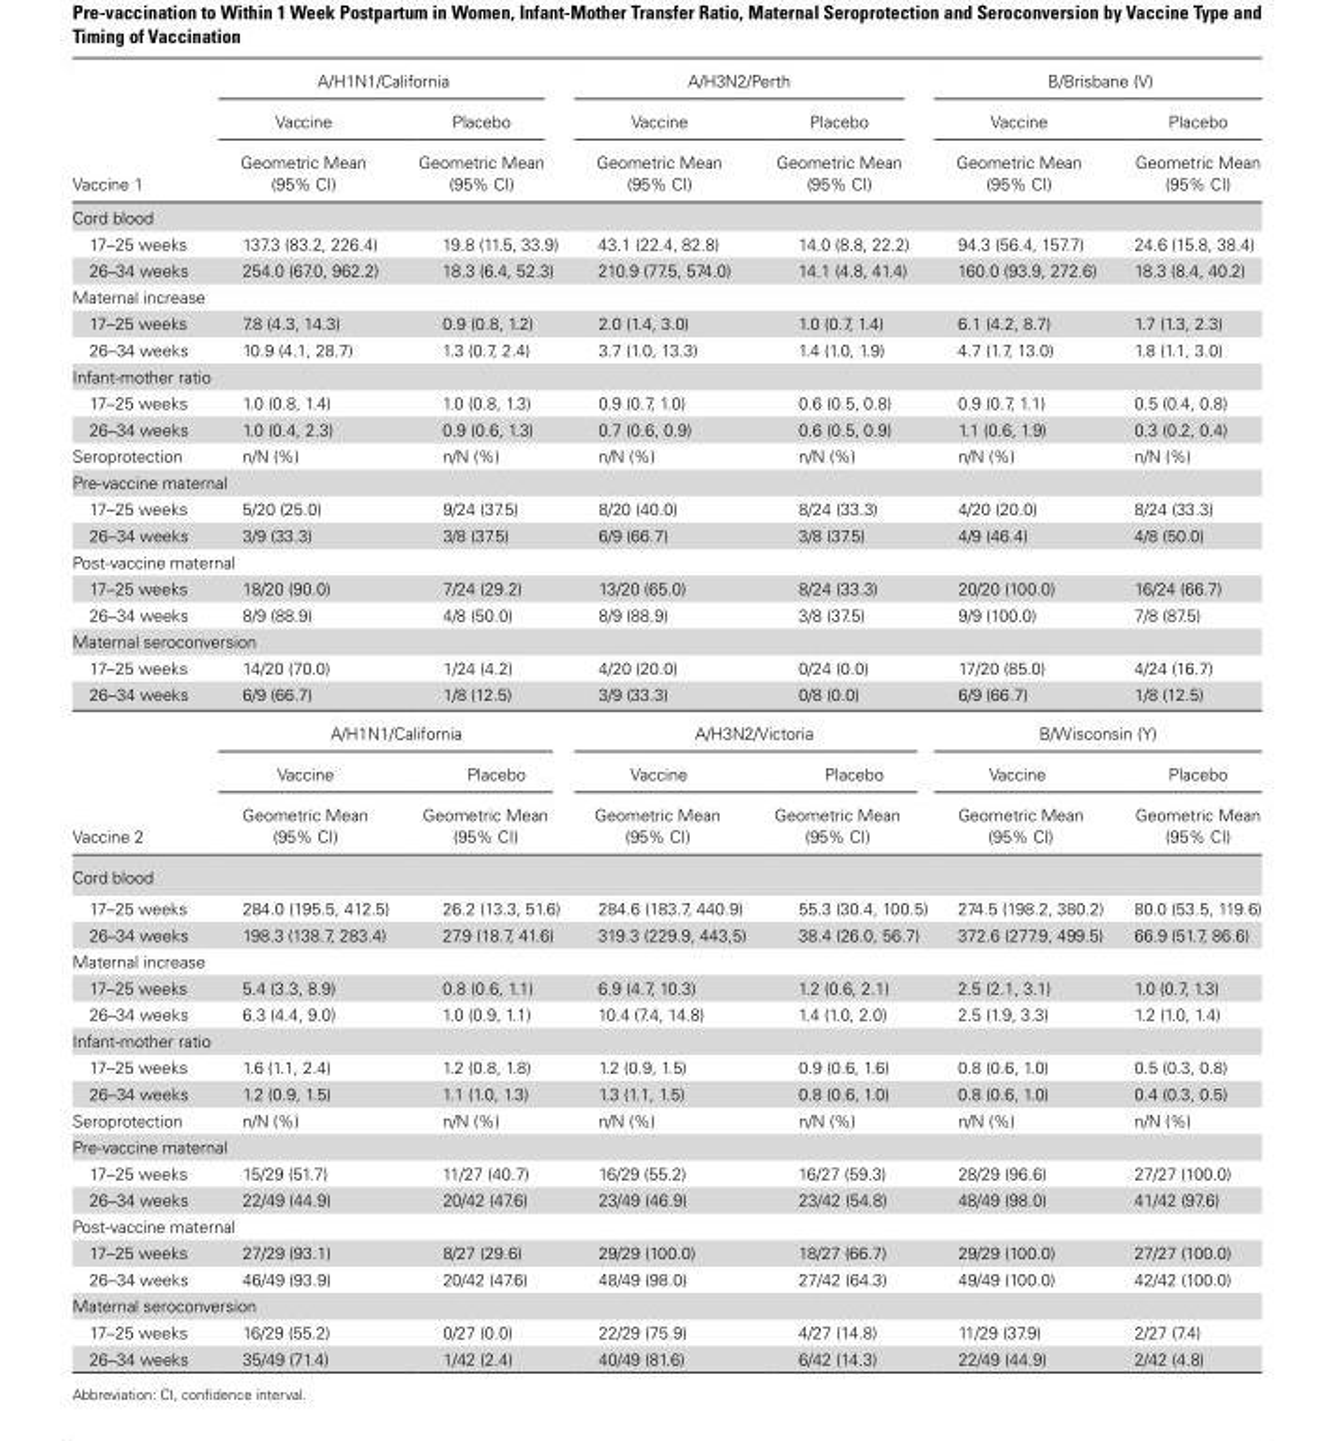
<table><thead><tr><td rowspan="3">Vaccine 1</td><td colspan="2">A/H1N1/California</td><td colspan="2">A/H3N2/Perth</td><td colspan="2">B/Brisbane (V)</td></tr><tr><td rowspan="2">Vaccine Geometric Mean (95% CI)</td><td rowspan="2">Placebo Geometric Mean (95% CI)</td><td rowspan="2">Vaccine Geometric Mean (95% CI)</td><td rowspan="2">Placebo Geometric Mean (95% CI)</td><td rowspan="2">Vaccine Geometric Mean (95% CI)</td><td rowspan="2">Placebo Geometric Mean (95% CI)</td></tr><tr></tr></thead><tbody><tr><td colspan="7">Cord blood</td></tr><tr><td>17–25 weeks</td><td>137.3 (83.2, 226.4)</td><td>19.8 (11.5, 33.9)</td><td>43.1 (22.4, 82.8)</td><td>14.0 (8.8, 22.2)</td><td>94.3 (56.4, 157.7)</td><td>24.6 (15.8, 38.4)</td></tr><tr><td>26–34 weeks</td><td>254.0 (67.0, 962.2)</td><td>18.3 (6.4, 52.3)</td><td>210.9 (77.5, 574.0)</td><td>14.1 (4.8, 41.4)</td><td>160.0 (93.9, 272.6)</td><td>18.3 (8.4, 40.2)</td></tr><tr><td colspan="7">Maternal increase</td></tr><tr><td>17–25 weeks</td><td>7.8 (4.3, 14.3)</td><td>0.9 (0.8, 1.2)</td><td>2.0 (1.4, 3.0)</td><td>1.0 (0.7, 1.4)</td><td>6.1 (4.2, 8.7)</td><td>1.7 (1.3, 2.3)</td></tr><tr><td>26–34 weeks</td><td>10.9 (4.1, 28.7)</td><td>1.3 (0.7, 2.4)</td><td>3.7 (1.0, 13.3)</td><td>1.4 (1.0, 1.9)</td><td>4.7 (1.7, 13.0)</td><td>1.8 (1.1, 3.0)</td></tr><tr><td colspan="7">Infant-mother ratio</td></tr><tr><td>17–25 weeks</td><td>1.0 (0.8, 1.4)</td><td>1.0 (0.8, 1.3)</td><td>0.9 (0.7, 1.0)</td><td>0.6 (0.5, 0.8)</td><td>0.9 (0.7, 1.1)</td><td>0.5 (0.4, 0.8)</td></tr><tr><td>26–34 weeks</td><td>1.0 (0.4, 2.3)</td><td>0.9 (0.6, 1.3)</td><td>0.7 (0.6, 0.9)</td><td>0.6 (0.5, 0.9)</td><td>1.1 (0.6, 1.9)</td><td>0.3 (0.2, 0.4)</td></tr><tr><td>Seroprotection</td><td>n/N (%)</td><td>n/N (%)</td><td>n/N (%)</td><td>n/N (%)</td><td>n/N (%)</td><td>n/N (%)</td></tr><tr><td colspan="7">Pre-vaccine maternal</td></tr><tr><td>17–25 weeks</td><td>5/20 (25.0)</td><td>9/24 (37.5)</td><td>8/20 (40.0)</td><td>8/24 (33.3)</td><td>4/20 (20.0)</td><td>8/24 (33.3)</td></tr><tr><td>26–34 weeks</td><td>3/9 (33.3)</td><td>3/8 (37.5)</td><td>6/9 (66.7)</td><td>3/8 (37.5)</td><td>4/9 (46.4)</td><td>4/8 (50.0)</td></tr><tr><td colspan="7">Post-vaccine maternal</td></tr><tr><td>17–25 weeks</td><td>18/20 (90.0)</td><td>7/24 (29.2)</td><td>13/20 (65.0)</td><td>8/24 (33.3)</td><td>20/20 (100.0)</td><td>16/24 (66.7)</td></tr><tr><td>26–34 weeks</td><td>8/9 (88.9)</td><td>4/8 (50.0)</td><td>8/9 (88.9)</td><td>3/8 (37.5)</td><td>9/9 (100.0)</td><td>7/8 (87.5)</td></tr><tr><td colspan="7">Maternal seroconversion</td></tr><tr><td>17–25 weeks</td><td>14/20 (70.0)</td><td>1/24 (4.2)</td><td>4/20 (20.0)</td><td>0/24 (0.0)</td><td>17/20 (85.0)</td><td>4/24 (16.7)</td></tr><tr><td>26–34 weeks</td><td>6/9 (66.7)</td><td>1/8 (12.5)</td><td>3/9 (33.3)</td><td>0/8 (0.0)</td><td>6/9 (66.7)</td><td>1/8 (12.5)</td></tr><tr><td rowspan="3">Vaccine 2</td><td colspan="2">A/H1N1/California</td><td colspan="2">A/H3N2/Victoria</td><td colspan="2">B/Wisconsin (Y)</td></tr><tr><td>Vaccine</td><td>Placebo</td><td>Vaccine</td><td>Placebo</td><td>Vaccine</td><td>Placebo</td></tr><tr><td>Geometric Mean (95% CI)</td><td>Geometric Mean (95% CI)</td><td>Geometric Mean (95% CI)</td><td>Geometric Mean (95% CI)</td><td>Geometric Mean (95% CI)</td><td>Geometric Mean (95% CI)</td></tr><tr><td colspan="7">Cord blood</td></tr><tr><td>17–25 weeks</td><td>284.0 (195.5, 412.5)</td><td>26.2 (13.3, 51.6)</td><td>284.6 (183.7, 440.9)</td><td>55.3 (30.4, 100.5)</td><td>274.5 (198.2, 380.2)</td><td>80.0 (53.5, 119.6)</td></tr><tr><td>26–34 weeks</td><td>198.3 (138.7, 283.4)</td><td>27.9 (18.7, 41.6)</td><td>319.3 (229.9, 443,5)</td><td>38.4 (26.0, 56.7)</td><td>372.6 (277.9, 499.5)</td><td>66.9 (51.7, 86.6)</td></tr><tr><td colspan="7">Maternal increase</td></tr><tr><td>17–25 weeks</td><td>5.4 (3.3, 8.9)</td><td>0.8 (0.6, 1.1)</td><td>6.9 (4.7, 10.3)</td><td>1.2 (0.6, 2.1)</td><td>2.5 (2.1, 3.1)</td><td>1.0 (0.7, 1.3)</td></tr><tr><td>26–34 weeks</td><td>6.3 (4.4, 9.0)</td><td>1.0 (0.9, 1.1)</td><td>10.4 (7.4, 14.8)</td><td>1.4 (1.0, 2.0)</td><td>2.5 (1.9, 3.3)</td><td>1.2 (1.0, 1.4)</td></tr><tr><td colspan="7">Infant-mother ratio</td></tr><tr><td>17–25 weeks</td><td>1.6 (1.1, 2.4)</td><td>1.2 (0.8, 1.8)</td><td>1.2 (0.9, 1.5)</td><td>0.9 (0.6, 1.6)</td><td>0.8 (0.6, 1.0)</td><td>0.5 (0.3, 0.8)</td></tr><tr><td>26–34 weeks</td><td>1.2 (0.9, 1.5)</td><td>1.1 (1.0, 1.3)</td><td>1.3 (1.1, 1.5)</td><td>0.8 (0.6, 1.0)</td><td>0.8 (0.6, 1.0)</td><td>0.4 (0.3, 0.5)</td></tr><tr><td>Seroprotection</td><td>n/N (%)</td><td>n/N (%)</td><td>n/N (%)</td><td>n/N (%)</td><td>n/N (%)</td><td>n/N (%)</td></tr><tr><td colspan="7">Pre-vaccine maternal</td></tr><tr><td>17–25 weeks</td><td>15/29 (51.7)</td><td>11/27 (40.7)</td><td>16/29 (55.2)</td><td>16/27 (59.3)</td><td>28/29 (96.6)</td><td>27/27 (100.0)</td></tr><tr><td>26–34 weeks</td><td>22/49 (44.9)</td><td>20/42 (47.6)</td><td>23/49 (46.9)</td><td>23/42 (54.8)</td><td>48/49 (98.0)</td><td>41/42 (97.6)</td></tr><tr><td colspan="7">Post-vaccine maternal</td></tr><tr><td>17–25 weeks</td><td>27/29 (93.1)</td><td>8/27 (29.6)</td><td>29/29 (100.0)</td><td>18/27 (66.7)</td><td>29/29 (100.0)</td><td>27/27 (100.0)</td></tr><tr><td>26–34 weeks</td><td>46/49 (93.9)</td><td>20/42 (47.6)</td><td>48/49 (98.0)</td><td>27/42 (64.3)</td><td>49/49 (100.0)</td><td>42/42 (100.0)</td></tr><tr><td colspan="7">Maternal seroconversion</td></tr><tr><td>17–25 weeks</td><td>16/29 (55.2)</td><td>0/27 (0.0)</td><td>22/29 (75.9)</td><td>4/27 (14.8)</td><td>11/29 (37.9)</td><td>2/27 (7.4)</td></tr><tr><td>26–34 weeks</td><td>35/49 (71.4)</td><td>1/42 (2.4)</td><td>40/49 (81.6)</td><td>6/42 (14.3)</td><td>22/49 (44.9)</td><td>2/42 (4.8)</td></tr></tbody></table>